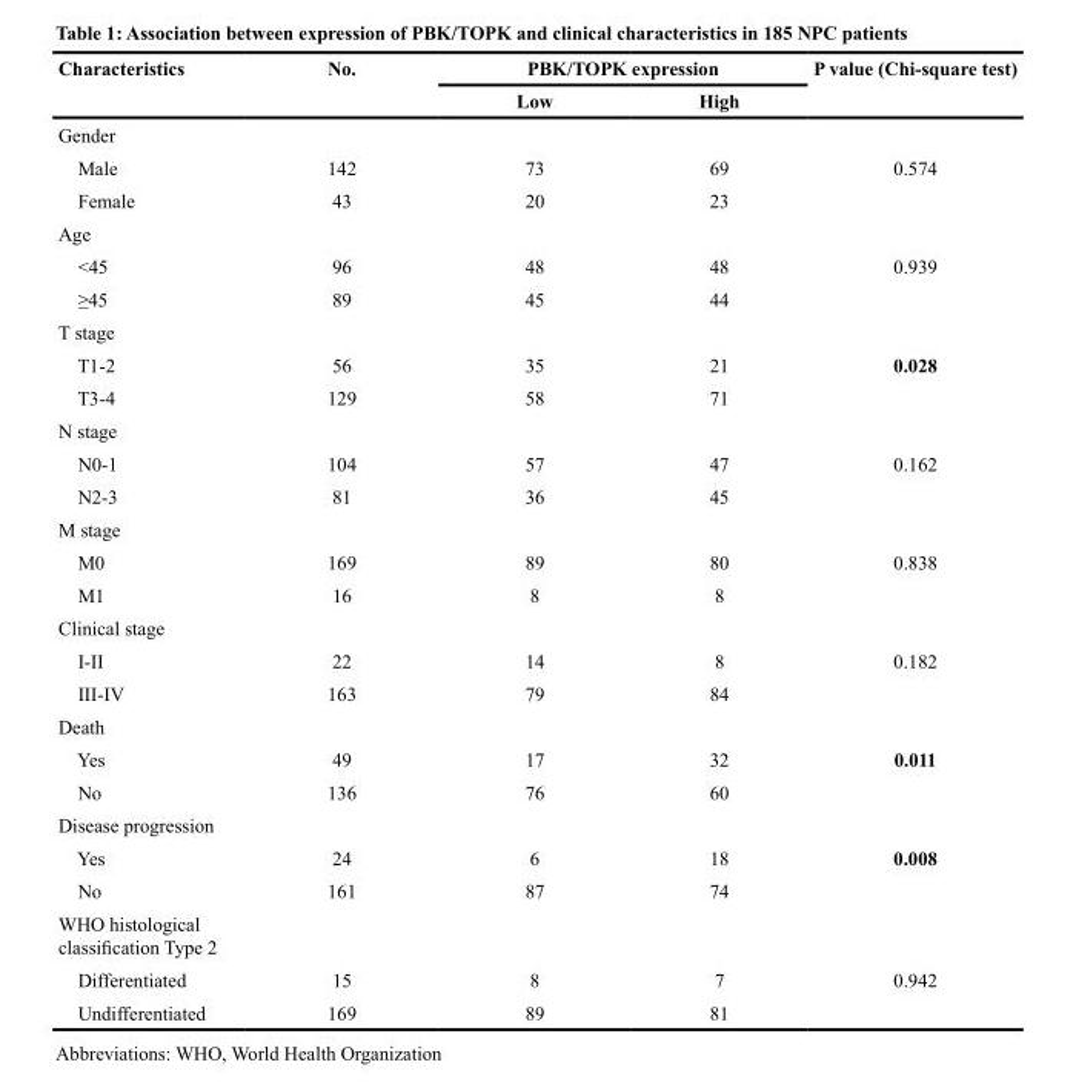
<table><thead><tr><td rowspan="2">Characteristics</td><td rowspan="2">No.</td><td colspan="2">PBK/TOPK expression</td><td rowspan="2">P value (Chi-square test)</td></tr><tr><td>Low</td><td>High</td></tr></thead><tbody><tr><td colspan="5">Gender</td></tr><tr><td>Male</td><td>142</td><td>73</td><td>69</td><td>0.574</td></tr><tr><td>Female</td><td>43</td><td>20</td><td>23</td><td></td></tr><tr><td colspan="5">Age</td></tr><tr><td>&lt;45</td><td>96</td><td>48</td><td>48</td><td>0.939</td></tr><tr><td>≥45</td><td>89</td><td>45</td><td>44</td><td></td></tr><tr><td colspan="5">T stage</td></tr><tr><td>T1-2</td><td>56</td><td>35</td><td>21</td><td>0.028</td></tr><tr><td>T3-4</td><td>129</td><td>58</td><td>71</td><td></td></tr><tr><td colspan="5">N stage</td></tr><tr><td>N0-1</td><td>104</td><td>57</td><td>47</td><td>0.162</td></tr><tr><td>N2-3</td><td>81</td><td>36</td><td>45</td><td></td></tr><tr><td colspan="5">M stage</td></tr><tr><td>M0</td><td>169</td><td>89</td><td>80</td><td>0.838</td></tr><tr><td>M1</td><td>16</td><td>8</td><td>8</td><td></td></tr><tr><td colspan="5">Clinical stage</td></tr><tr><td>I-II</td><td>22</td><td>14</td><td>8</td><td>0.182</td></tr><tr><td>III-IV</td><td>163</td><td>79</td><td>84</td><td></td></tr><tr><td colspan="5">Death</td></tr><tr><td>Yes</td><td>49</td><td>17</td><td>32</td><td>0.011</td></tr><tr><td>No</td><td>136</td><td>76</td><td>60</td><td></td></tr><tr><td colspan="5">Disease progression</td></tr><tr><td>Yes</td><td>24</td><td>6</td><td>18</td><td>0.008</td></tr><tr><td>No</td><td>161</td><td>87</td><td>74</td><td></td></tr><tr><td colspan="5">WHO histological classification Type 2</td></tr><tr><td>Differentiated</td><td>15</td><td>8</td><td>7</td><td>0.942</td></tr><tr><td>Undifferentiated</td><td>169</td><td>89</td><td>81</td><td></td></tr></tbody></table>